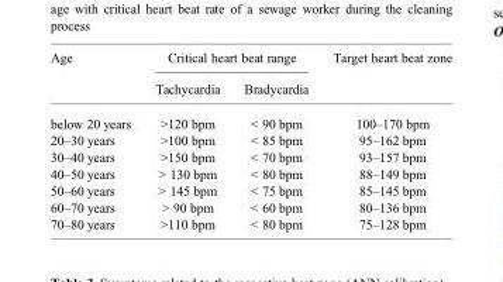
<table><thead><tr><td rowspan="2">Age</td><td colspan="2">Critical heart beat range</td><td rowspan="2">Target heart beat zone</td></tr><tr><td>Tachycardia</td><td>Bradycardia</td></tr></thead><tbody><tr><td>below 20 years</td><td>&gt;120 bpm</td><td>&lt; 90 bpm</td><td>100–170 bpm</td></tr><tr><td>20–30 years</td><td>&gt;100 bpm</td><td>&lt; 85 bpm</td><td>95–162 bpm</td></tr><tr><td>30–40 years</td><td>&gt;150 bpm</td><td>&lt; 70 bpm</td><td>93–157 bpm</td></tr><tr><td>40–50 years</td><td>&gt; 130 bpm</td><td>&lt; 80 bpm</td><td>88–149 bpm</td></tr><tr><td>50–60 years</td><td>&gt; 145 bpm</td><td>&lt; 75 bpm</td><td>85–145 bpm</td></tr><tr><td>60–70 years</td><td>&gt; 90 bpm</td><td>&lt; 60 bpm</td><td>80–136 bpm</td></tr><tr><td>70–80 years</td><td>&gt;110 bpm</td><td>&lt; 80 bpm</td><td>75–128 bpm</td></tr></tbody></table>